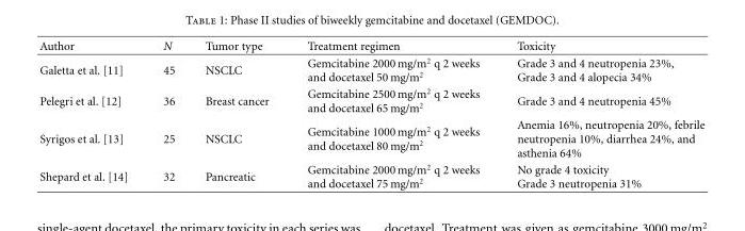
<table><thead><tr><td>Author</td><td>N</td><td>Tumor type</td><td>Treatment regimen</td><td>Toxicity</td></tr></thead><tbody><tr><td>Galetta et al. [11]</td><td>45</td><td>NSCLC</td><td>Gemcitabine 2000 mg/m<sup>2</sup> q 2 weeks and docetaxel 50 mg/m<sup>2</sup></td><td>Grade 3 and 4 neutropenia 23%, Grade 3 and 4 alopecia 34%</td></tr><tr><td>Pelegri et al. [12]</td><td>36</td><td>Breast cancer</td><td>Gemcitabine 2500 mg/m<sup>2</sup> q 2 weeks and docetaxel 65 mg/m<sup>2</sup></td><td>Grade 3 and 4 neutropenia 45%</td></tr><tr><td>Syrigos et al. [13]</td><td>25</td><td>NSCLC</td><td>Gemcitabine 1000 mg/m<sup>2</sup> q 2 weeks and docetaxel 80 mg/m<sup>2</sup></td><td>Anemia 16%, neutropenia 20%, febrile neutropenia 10%, diarrhea 24%, and asthenia 64%</td></tr><tr><td>Shepard et al. [14]</td><td>32</td><td>Pancreatic</td><td>Gemcitabine 2000 mg/m<sup>2</sup> q 2 weeks and docetaxel 75 mg/m<sup>2</sup></td><td>No grade 4 toxicity Grade 3 neutropenia 31%</td></tr></tbody></table>